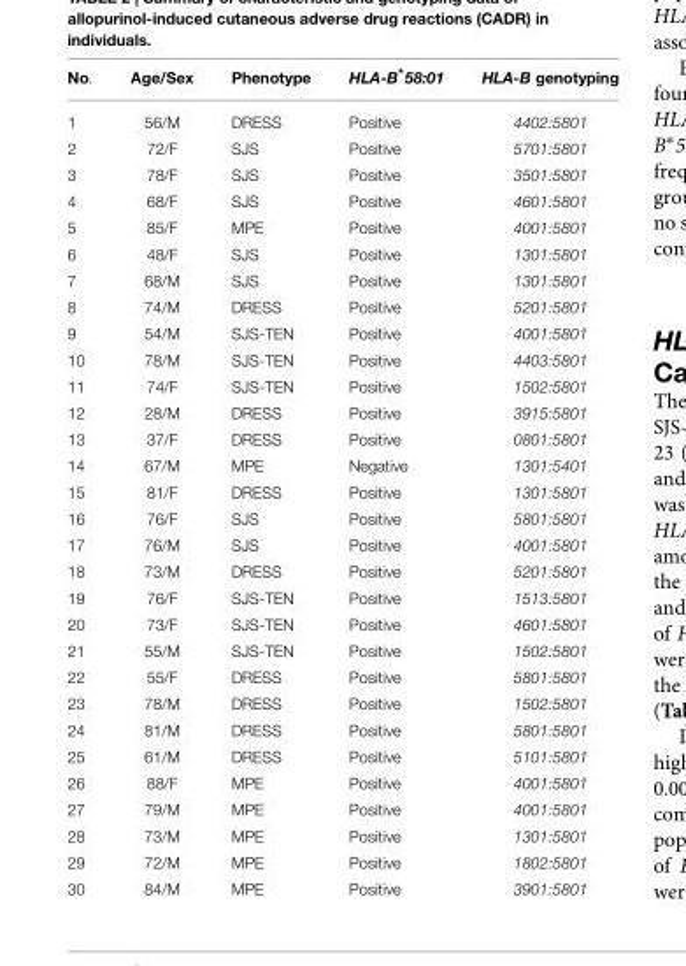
<table><thead><tr><td>No.</td><td>Age/Sex</td><td>Phenotype</td><td>HLA-B*58:01</td><td>HLA-B genotyping</td></tr></thead><tbody><tr><td>1</td><td>56/M</td><td>DRESS</td><td>Positive</td><td>4402:5801</td></tr><tr><td>2</td><td>72/F</td><td>SJS</td><td>Positive</td><td>5701:5801</td></tr><tr><td>3</td><td>78/F</td><td>SJS</td><td>Positive</td><td>3501:5801</td></tr><tr><td>4</td><td>68/F</td><td>SJS</td><td>Positive</td><td>4601:5801</td></tr><tr><td>5</td><td>85/F</td><td>MPE</td><td>Positive</td><td>4001:5801</td></tr><tr><td>6</td><td>48/F</td><td>SJS</td><td>Positive</td><td>1301:5801</td></tr><tr><td>7</td><td>68/M</td><td>SJS</td><td>Positive</td><td>1301:5801</td></tr><tr><td>8</td><td>74/M</td><td>DRESS</td><td>Positive</td><td>5201:5801</td></tr><tr><td>9</td><td>54/M</td><td>SJS-TEN</td><td>Positive</td><td>4001:5801</td></tr><tr><td>10</td><td>78/M</td><td>SJS-TEN</td><td>Positive</td><td>4403:5801</td></tr><tr><td>11</td><td>74/F</td><td>SJS-TEN</td><td>Positive</td><td>1502:5801</td></tr><tr><td>12</td><td>28/M</td><td>DRESS</td><td>Positive</td><td>3915:5801</td></tr><tr><td>13</td><td>37/F</td><td>DRESS</td><td>Positive</td><td>0801:5801</td></tr><tr><td>14</td><td>67/M</td><td>MPE</td><td>Negative</td><td>1301:5401</td></tr><tr><td>15</td><td>81/F</td><td>DRESS</td><td>Positive</td><td>1301:5801</td></tr><tr><td>16</td><td>76/F</td><td>SJS</td><td>Positive</td><td>5801:5801</td></tr><tr><td>17</td><td>76/M</td><td>SJS</td><td>Positive</td><td>4001:5801</td></tr><tr><td>18</td><td>73/M</td><td>DRESS</td><td>Positive</td><td>5201:5801</td></tr><tr><td>19</td><td>76/F</td><td>SJS-TEN</td><td>Positive</td><td>1513:5801</td></tr><tr><td>20</td><td>73/F</td><td>SJS-TEN</td><td>Positive</td><td>4601:5801</td></tr><tr><td>21</td><td>55/M</td><td>SJS-TEN</td><td>Positive</td><td>1502:5801</td></tr><tr><td>22</td><td>55/F</td><td>DRESS</td><td>Positive</td><td>5801:5801</td></tr><tr><td>23</td><td>78/M</td><td>DRESS</td><td>Positive</td><td>1502:5801</td></tr><tr><td>24</td><td>81/M</td><td>DRESS</td><td>Positive</td><td>5801:5801</td></tr><tr><td>25</td><td>61/M</td><td>DRESS</td><td>Positive</td><td>5101:5801</td></tr><tr><td>26</td><td>88/F</td><td>MPE</td><td>Positive</td><td>4001:5801</td></tr><tr><td>27</td><td>79/M</td><td>MPE</td><td>Positive</td><td>4001:5801</td></tr><tr><td>28</td><td>73/M</td><td>MPE</td><td>Positive</td><td>1301:5801</td></tr><tr><td>29</td><td>72/M</td><td>MPE</td><td>Positive</td><td>1802:5801</td></tr><tr><td>30</td><td>84/M</td><td>MPE</td><td>Positive</td><td>3901:5801</td></tr></tbody></table>